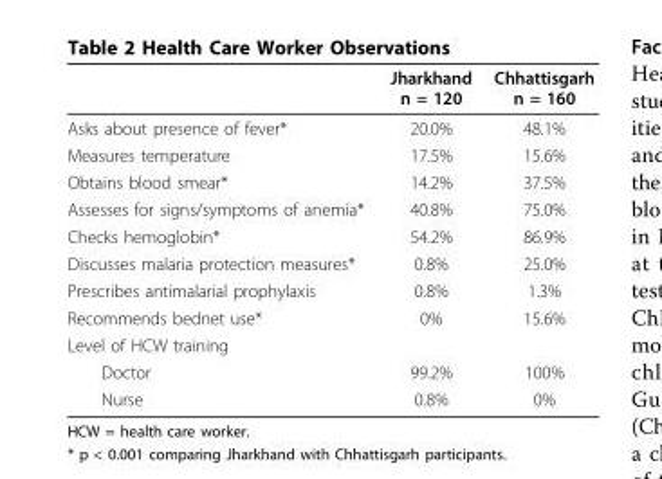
<table><thead><tr><td></td><td>Jharkhand n = 120</td><td>Chhattisgarh n = 160</td></tr></thead><tbody><tr><td>Asks about presence of fever*</td><td>20.0%</td><td>48.1%</td></tr><tr><td>Measures temperature</td><td>17.5%</td><td>15.6%</td></tr><tr><td>Obtains blood smear*</td><td>14.2%</td><td>37.5%</td></tr><tr><td>Assesses for signs/symptoms of anemia*</td><td>40.8%</td><td>75.0%</td></tr><tr><td>Checks hemoglobin*</td><td>54.2%</td><td>86.9%</td></tr><tr><td>Discusses malaria protection measures*</td><td>0.8%</td><td>25.0%</td></tr><tr><td>Prescribes antimalarial prophylaxis</td><td>0.8%</td><td>1.3%</td></tr><tr><td>Recommends bednet use*</td><td>0%</td><td>15.6%</td></tr><tr><td colspan="3">Level of HCW training</td></tr><tr><td>Doctor</td><td>99.2%</td><td>100%</td></tr><tr><td>Nurse</td><td>0.8%</td><td>0%</td></tr></tbody></table>